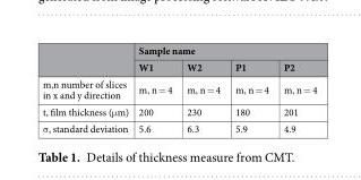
<table><thead><tr><td rowspan="2"></td><td colspan="4">Sample name</td></tr><tr><td>W1</td><td>W2</td><td>P1</td><td>P2</td></tr></thead><tbody><tr><td>m,n number of slices in x and y direction</td><td>m, n = 4</td><td>m, n = 4</td><td>m, n = 4</td><td>m, n = 4</td></tr><tr><td>t, film thickness (μm)</td><td>200</td><td>230</td><td>180</td><td>201</td></tr><tr><td>σ, standard deviation</td><td>5.6</td><td>6.3</td><td>5.9</td><td>4.9</td></tr></tbody></table>